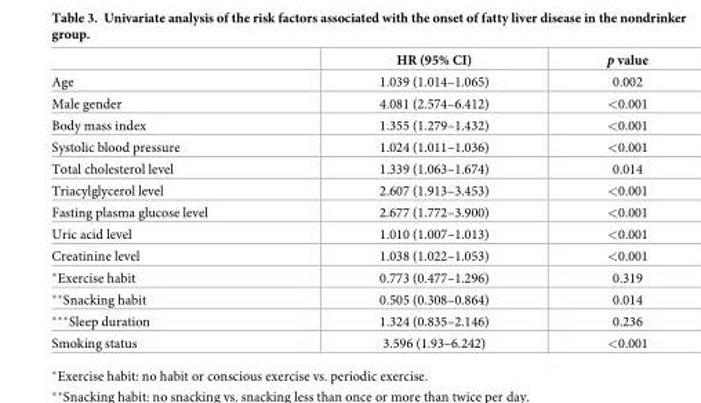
<table><thead><tr><td></td><td>HR (95% CI)</td><td>p value</td></tr></thead><tbody><tr><td>Age</td><td>1.039 (1.014–1.065)</td><td>0.002</td></tr><tr><td>Male gender</td><td>4.081 (2.574–6.412)</td><td>&lt;0.001</td></tr><tr><td>Body mass index</td><td>1.355 (1.279–1.432)</td><td>&lt;0.001</td></tr><tr><td>Systolic blood pressure</td><td>1.024 (1.011–1.036)</td><td>&lt;0.001</td></tr><tr><td>Total cholesterol level</td><td>1.339 (1.063–1.674)</td><td>0.014</td></tr><tr><td>Triacylglycerol level</td><td>2.607 (1.913–3.453)</td><td>&lt;0.001</td></tr><tr><td>Fasting plasma glucose level</td><td>2.677 (1.772–3.900)</td><td>&lt;0.001</td></tr><tr><td>Uric acid level</td><td>1.010 (1.007–1.013)</td><td>&lt;0.001</td></tr><tr><td>Creatinine level</td><td>1.038 (1.022–1.053)</td><td>&lt;0.001</td></tr><tr><td>*Exercise habit</td><td>0.773 (0.477–1.296)</td><td>0.319</td></tr><tr><td>**Snacking habit</td><td>0.505 (0.308–0.864)</td><td>0.014</td></tr><tr><td>***Sleep duration</td><td>1.324 (0.835–2.146)</td><td>0.236</td></tr><tr><td>Smoking status</td><td>3.596 (1.93–6.242)</td><td>&lt;0.001</td></tr></tbody></table>